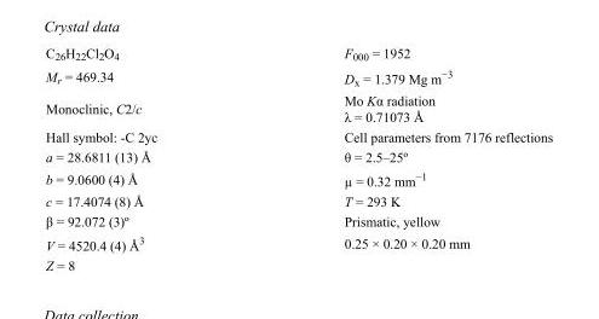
<table><tbody><tr><td>C<sub>26</sub>H<sub>22</sub>Cl<sub>2</sub>O<sub>4</sub></td><td>F000 = 1952</td></tr><tr><td>M<sub>r</sub> = 469.34</td><td>D<sub>x</sub> = 1.379 Mg m<sup>−3</sup></td></tr><tr><td>Monoclinic, C2/c</td><td>Mo Kα radiation λ = 0.71073 Å</td></tr><tr><td>Hall symbol: -C 2yc</td><td>Cell parameters from 7176 reflections</td></tr><tr><td>a = 28.6811 (13) Å</td><td>θ = 2.5–25º</td></tr><tr><td>b = 9.0600 (4) Å</td><td>µ = 0.32 mm<sup>−1</sup></td></tr><tr><td>c = 17.4074 (8) Å</td><td>T = 293 K</td></tr><tr><td>β = 92.072 (3)º</td><td>Prismatic, yellow</td></tr><tr><td>V = 4520.4 (4) Å<sup>3</sup></td><td>0.25 × 0.20 × 0.20 mm</td></tr><tr><td>Z = 8</td><td></td></tr></tbody></table>